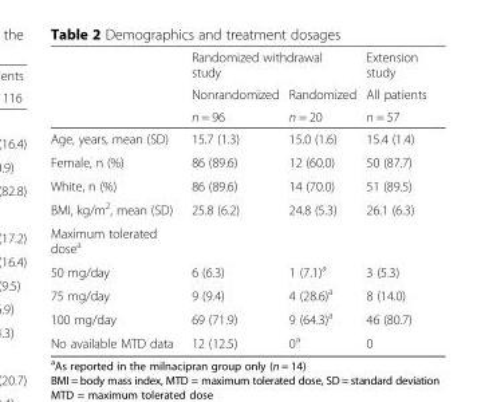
<table><thead><tr><td rowspan="3"></td><td colspan="2">Randomized withdrawal study</td><td rowspan="3">Extension study All patients n = 57</td></tr><tr><td rowspan="2">Nonrandomized n = 96</td><td rowspan="2">Randomized n = 20</td></tr><tr></tr></thead><tbody><tr><td>Age, years, mean (SD)</td><td>15.7 (1.3)</td><td>15.0 (1.6)</td><td>15.4 (1.4)</td></tr><tr><td>Female, n (%)</td><td>86 (89.6)</td><td>12 (60.0)</td><td>50 (87.7)</td></tr><tr><td>White, n (%)</td><td>86 (89.6)</td><td>14 (70.0)</td><td>51 (89.5)</td></tr><tr><td>BMI, kg/m<sup>2</sup>, mean (SD)</td><td>25.8 (6.2)</td><td>24.8 (5.3)</td><td>26.1 (6.3)</td></tr><tr><td colspan="4">Maximum tolerated dose<sup>a</sup></td></tr><tr><td>50 mg/day</td><td>6 (6.3)</td><td>1 (7.1)<sup>a</sup></td><td>3 (5.3)</td></tr><tr><td>75 mg/day</td><td>9 (9.4)</td><td>4 (28.6)<sup>a</sup></td><td>8 (14.0)</td></tr><tr><td>100 mg/day</td><td>69 (71.9)</td><td>9 (64.3)<sup>a</sup></td><td>46 (80.7)</td></tr><tr><td>No available MTD data</td><td>12 (12.5)</td><td>0<sup>a</sup></td><td>0</td></tr></tbody></table>